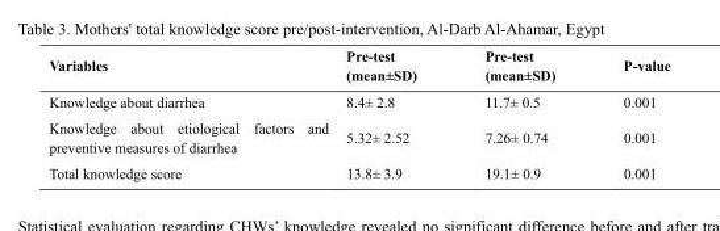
<table><thead><tr><td>Variables</td><td>Pre-test (mean±SD)</td><td>Pre-test (mean±SD)</td><td>P-value</td></tr></thead><tbody><tr><td>Knowledge about diarrhea</td><td>8.4± 2.8</td><td>11.7± 0.5</td><td>0.001</td></tr><tr><td>Knowledge about etiological factors and preventive measures of diarrhea</td><td>5.32± 2.52</td><td>7.26± 0.74</td><td>0.001</td></tr><tr><td>Total knowledge score</td><td>13.8± 3.9</td><td>19.1± 0.9</td><td>0.001</td></tr></tbody></table>